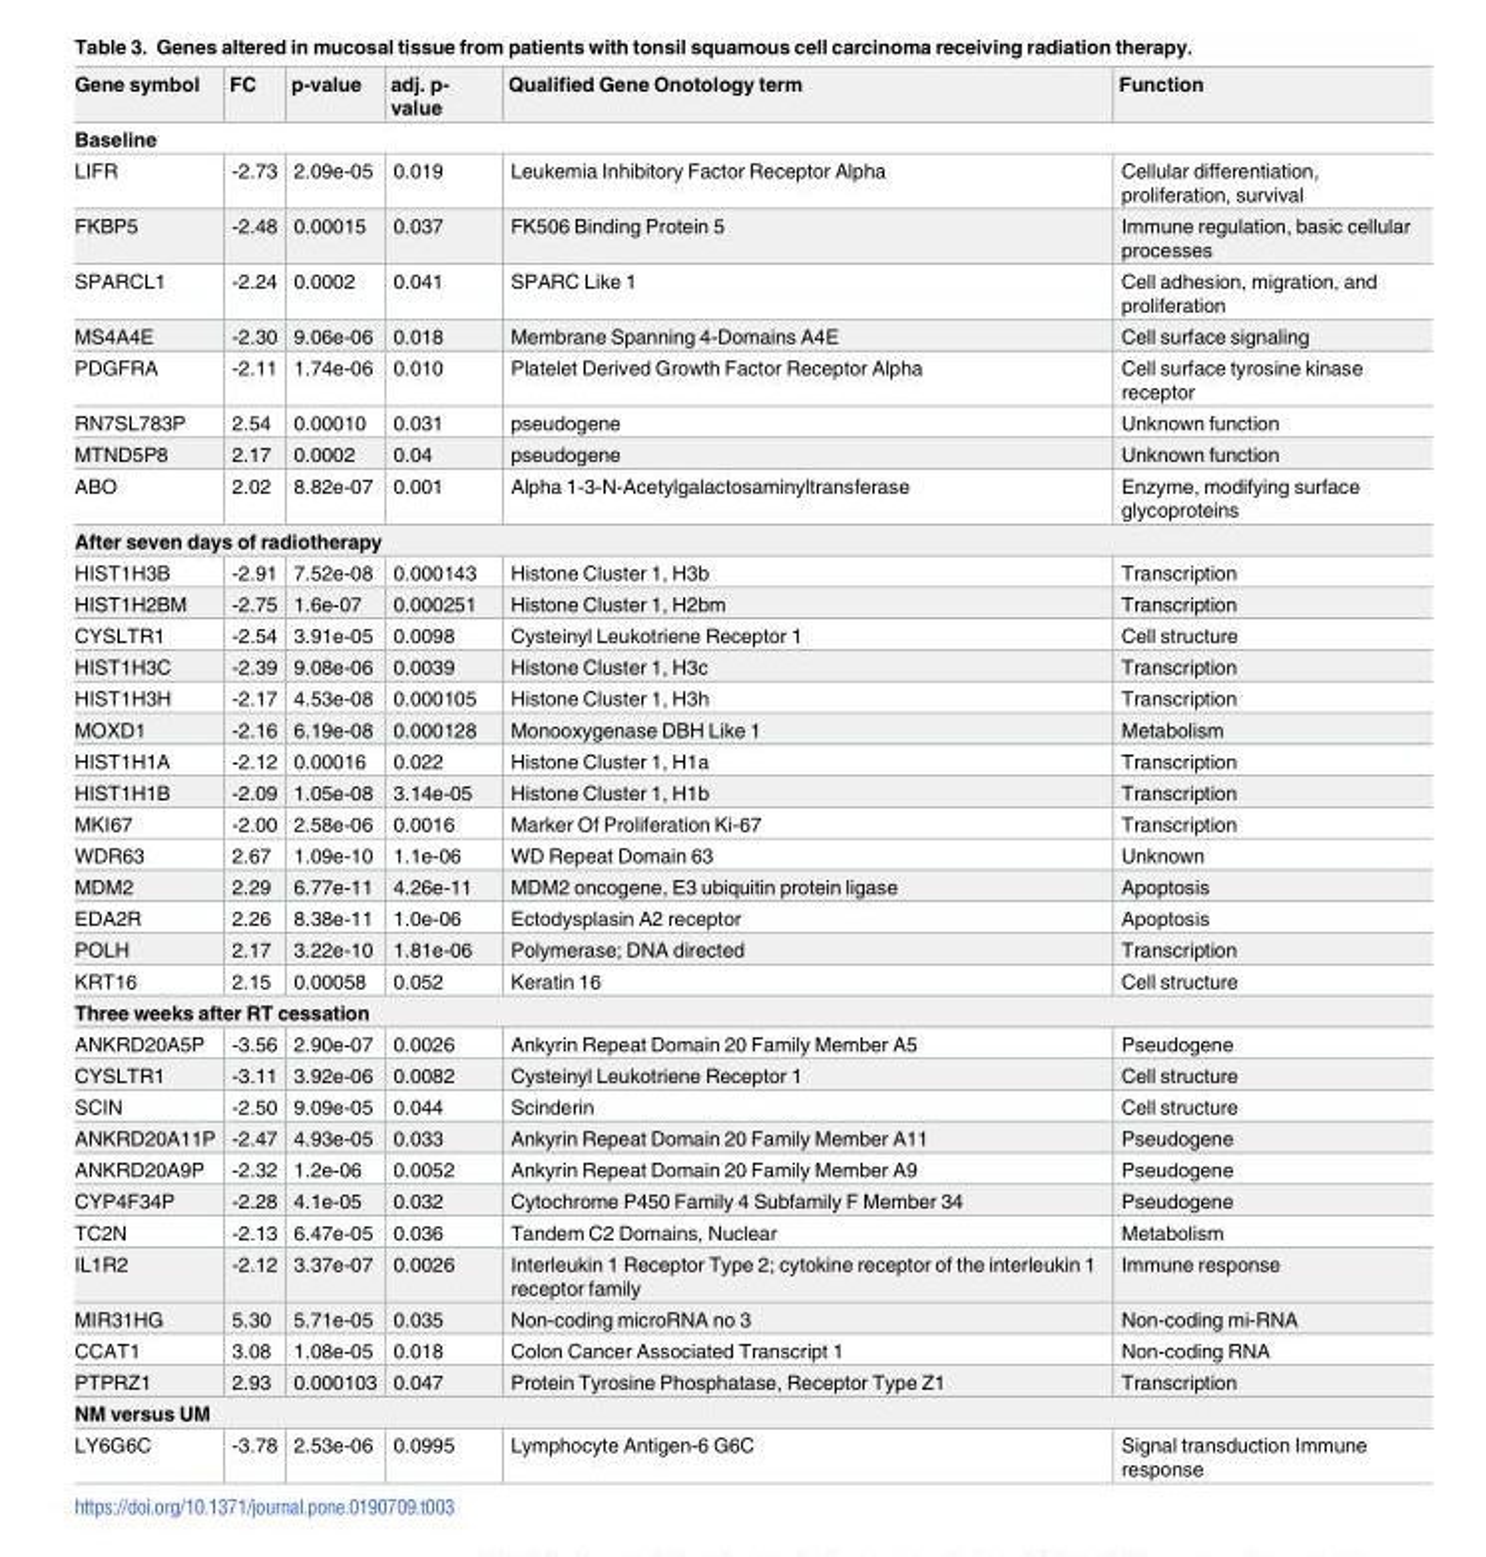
<table><thead><tr><td>Gene symbol</td><td>FC</td><td>p-value</td><td>adj. p- value</td><td>Qualified Gene Onotology term</td><td>Function</td></tr></thead><tbody><tr><td colspan="6">Baseline</td></tr><tr><td>LIFR</td><td>-2.73</td><td>2.09e-05</td><td>0.019</td><td>Leukemia Inhibitory Factor Receptor Alpha</td><td>Cellular differentiation, proliferation, survival</td></tr><tr><td>FKBP5</td><td>-2.48</td><td>0.00015</td><td>0.037</td><td>FK506 Binding Protein 5</td><td>Immune regulation, basic cellular processes</td></tr><tr><td>SPARCL1</td><td>-2.24</td><td>0.0002</td><td>0.041</td><td>SPARC Like 1</td><td>Cell adhesion, migration, and proliferation</td></tr><tr><td>MS4A4E</td><td>-2.30</td><td>9.06e-06</td><td>0.018</td><td>Membrane Spanning 4-Domains A4E</td><td>Cell surface signaling</td></tr><tr><td>PDGFRA</td><td>-2.11</td><td>1.74e-06</td><td>0.010</td><td>Platelet Derived Growth Factor Receptor Alpha</td><td>Cell surface tyrosine kinase receptor</td></tr><tr><td>RN7SL783P</td><td>2.54</td><td>0.00010</td><td>0.031</td><td>pseudogene</td><td>Unknown function</td></tr><tr><td>MTND5P8</td><td>2.17</td><td>0.0002</td><td>0.04</td><td>pseudogene</td><td>Unknown function</td></tr><tr><td>ABO</td><td>2.02</td><td>8.82e-07</td><td>0.001</td><td>Alpha 1-3-N-Acetylgalactosaminyltransferase</td><td>Enzyme, modifying surface glycoproteins</td></tr><tr><td colspan="6">After seven days of radiotherapy</td></tr><tr><td>HIST1H3B</td><td>-2.91</td><td>7.52e-08</td><td>0.000143</td><td>Histone Cluster 1, H3b</td><td>Transcription</td></tr><tr><td>HIST1H2BM</td><td>-2.75</td><td>1.6e-07</td><td>0.000251</td><td>Histone Cluster 1, H2bm</td><td>Transcription</td></tr><tr><td>CYSLTR1</td><td>-2.54</td><td>3.91e-05</td><td>0.0098</td><td>Cysteinyl Leukotriene Receptor 1</td><td>Cell structure</td></tr><tr><td>HIST1H3C</td><td>-2.39</td><td>9.08e-06</td><td>0.0039</td><td>Histone Cluster 1, H3c</td><td>Transcription</td></tr><tr><td>HIST1H3H</td><td>-2.17</td><td>4.53e-08</td><td>0.000105</td><td>Histone Cluster 1, H3h</td><td>Transcription</td></tr><tr><td>MOXD1</td><td>-2.16</td><td>6.19e-08</td><td>0.000128</td><td>Monooxygenase DBH Like 1</td><td>Metabolism</td></tr><tr><td>HIST1H1A</td><td>-2.12</td><td>0.00016</td><td>0.022</td><td>Histone Cluster 1, H1a</td><td>Transcription</td></tr><tr><td>HIST1H1B</td><td>-2.09</td><td>1.05e-08</td><td>3.14e-05</td><td>Histone Cluster 1, H1b</td><td>Transcription</td></tr><tr><td>MKI67</td><td>-2.00</td><td>2.58e-06</td><td>0.0016</td><td>Marker Of Proliferation Ki-67</td><td>Transcription</td></tr><tr><td>WDR63</td><td>2.67</td><td>1.09e-10</td><td>1.1e-06</td><td>WD Repeat Domain 63</td><td>Unknown</td></tr><tr><td>MDM2</td><td>2.29</td><td>6.77e-11</td><td>4.26e-11</td><td>MDM2 oncogene, E3 ubiquitin protein ligase</td><td>Apoptosis</td></tr><tr><td>EDA2R</td><td>2.26</td><td>8.38e-11</td><td>1.0e-06</td><td>Ectodysplasin A2 receptor</td><td>Apoptosis</td></tr><tr><td>POLH</td><td>2.17</td><td>3.22e-10</td><td>1.81e-06</td><td>Polymerase; DNA directed</td><td>Transcription</td></tr><tr><td>KRT16</td><td>2.15</td><td>0.00058</td><td>0.052</td><td>Keratin 16</td><td>Cell structure</td></tr><tr><td colspan="6">Three weeks after RT cessation</td></tr><tr><td>ANKRD20A5P</td><td>-3.56</td><td>2.90e-07</td><td>0.0026</td><td>Ankyrin Repeat Domain 20 Family Member A5</td><td>Pseudogene</td></tr><tr><td>CYSLTR1</td><td>-3.11</td><td>3.92e-06</td><td>0.0082</td><td>Cysteinyl Leukotriene Receptor 1</td><td>Cell structure</td></tr><tr><td>SCIN</td><td>-2.50</td><td>9.09e-05</td><td>0.044</td><td>Scinderin</td><td>Cell structure</td></tr><tr><td>ANKRD20A11P</td><td>-2.47</td><td>4.93e-05</td><td>0.033</td><td>Ankyrin Repeat Domain 20 Family Member A11</td><td>Pseudogene</td></tr><tr><td>ANKRD20A9P</td><td>-2.32</td><td>1.2e-06</td><td>0.0052</td><td>Ankyrin Repeat Domain 20 Family Member A9</td><td>Pseudogene</td></tr><tr><td>CYP4F34P</td><td>-2.28</td><td>4.1e-05</td><td>0.032</td><td>Cytochrome P450 Family 4 Subfamily F Member 34</td><td>Pseudogene</td></tr><tr><td>TC2N</td><td>-2.13</td><td>6.47e-05</td><td>0.036</td><td>Tandem C2 Domains, Nuclear</td><td>Metabolism</td></tr><tr><td>IL1R2</td><td>-2.12</td><td>3.37e-07</td><td>0.0026</td><td>Interleukin 1 Receptor Type 2; cytokine receptor of the interleukin 1 receptor family</td><td>Immune response</td></tr><tr><td>MIR31HG</td><td>5.30</td><td>5.71e-05</td><td>0.035</td><td>Non-coding microRNA no 3</td><td>Non-coding mi-RNA</td></tr><tr><td>CCAT1</td><td>3.08</td><td>1.08e-05</td><td>0.018</td><td>Colon Cancer Associated Transcript 1</td><td>Non-coding RNA</td></tr><tr><td>PTPRZ1</td><td>2.93</td><td>0.000103</td><td>0.047</td><td>Protein Tyrosine Phosphatase, Receptor Type Z1</td><td>Transcription</td></tr><tr><td colspan="6">NM versus UM</td></tr><tr><td>LY6G6C</td><td>-3.78</td><td>2.53e-06</td><td>0.0995</td><td>Lymphocyte Antigen-6 G6C</td><td>Signal transduction Immune response</td></tr></tbody></table>